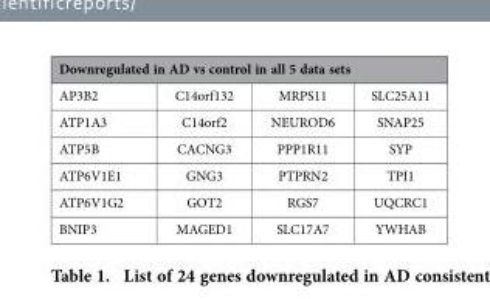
<table><thead><tr><td colspan="4">Downregulated in AD vs control in all 5 data sets</td></tr><tr><td>AP3B2</td><td>C14orf132</td><td>MRPS11</td><td>SLC25A11</td></tr></thead><tbody><tr><td>ATP1A3</td><td>C14orf2</td><td>NEUROD6</td><td>SNAP25</td></tr><tr><td>ATP5B</td><td>CACNG3</td><td>PPP1R11</td><td>SYP</td></tr><tr><td>ATP6V1E1</td><td>GNG3</td><td>PTPRN2</td><td>TPI1</td></tr><tr><td>ATP6V1G2</td><td>GOT2</td><td>RGS7</td><td>UQCRC1</td></tr><tr><td>BNIP3</td><td>MAGED1</td><td>SLC17A7</td><td>YWHAB</td></tr></tbody></table>